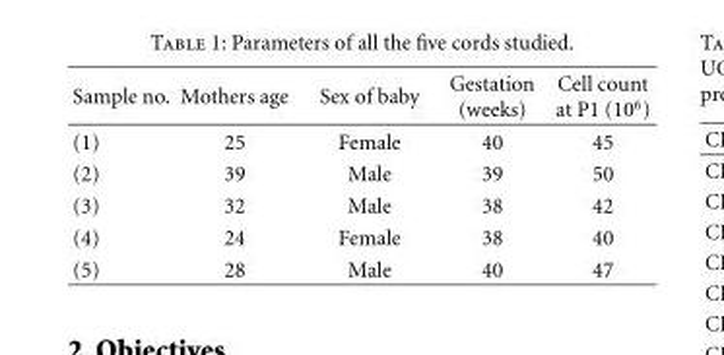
<table><thead><tr><td>Sample no.</td><td>Mothers age</td><td>Sex of baby</td><td>Gestation (weeks)</td><td>Cell count at P1 (10<sup>6</sup>)</td></tr></thead><tbody><tr><td>(1)</td><td>25</td><td>Female</td><td>40</td><td>45</td></tr><tr><td>(2)</td><td>39</td><td>Male</td><td>39</td><td>50</td></tr><tr><td>(3)</td><td>32</td><td>Male</td><td>38</td><td>42</td></tr><tr><td>(4)</td><td>24</td><td>Female</td><td>38</td><td>40</td></tr><tr><td>(5)</td><td>28</td><td>Male</td><td>40</td><td>47</td></tr></tbody></table>